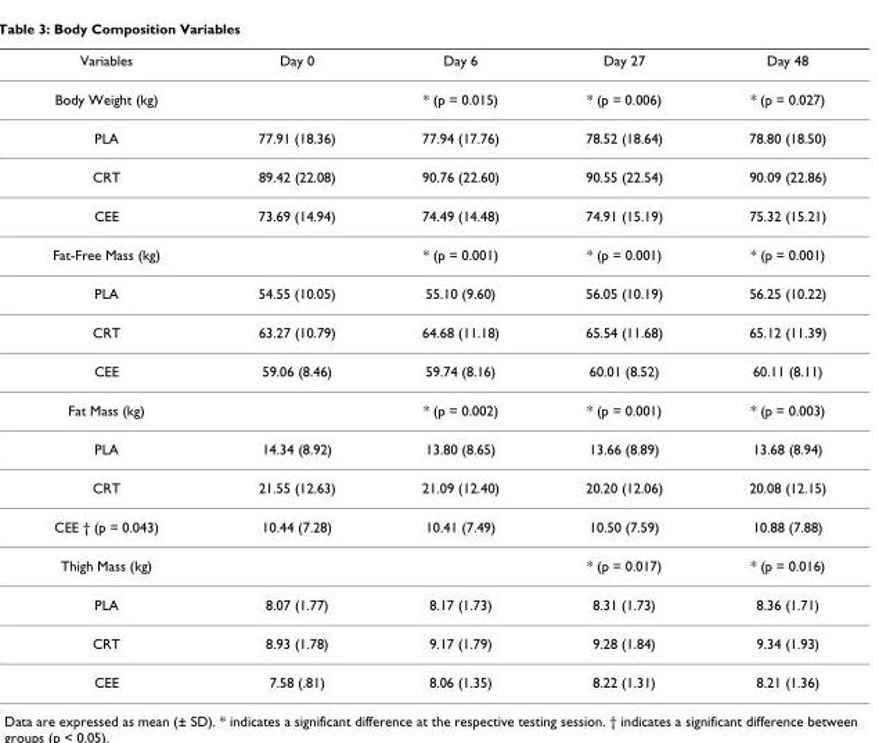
<table><thead><tr><td>Variables</td><td>Day 0</td><td>Day 6</td><td>Day 27</td><td>Day 48</td></tr></thead><tbody><tr><td>Body Weight (kg)</td><td></td><td>* (p = 0.015)</td><td>* (p = 0.006)</td><td>* (p = 0.027)</td></tr><tr><td>PLA</td><td>77.91 (18.36)</td><td>77.94 (17.76)</td><td>78.52 (18.64)</td><td>78.80 (18.50)</td></tr><tr><td>CRT</td><td>89.42 (22.08)</td><td>90.76 (22.60)</td><td>90.55 (22.54)</td><td>90.09 (22.86)</td></tr><tr><td>CEE</td><td>73.69 (14.94)</td><td>74.49 (14.48)</td><td>74.91 (15.19)</td><td>75.32 (15.21)</td></tr><tr><td>Fat-Free Mass (kg)</td><td></td><td>* (p = 0.001)</td><td>* (p = 0.001)</td><td>* (p = 0.001)</td></tr><tr><td>PLA</td><td>54.55 (10.05)</td><td>55.10 (9.60)</td><td>56.05 (10.19)</td><td>56.25 (10.22)</td></tr><tr><td>CRT</td><td>63.27 (10.79)</td><td>64.68 (11.18)</td><td>65.54 (11.68)</td><td>65.12 (11.39)</td></tr><tr><td>CEE</td><td>59.06 (8.46)</td><td>59.74 (8.16)</td><td>60.01 (8.52)</td><td>60.11 (8.11)</td></tr><tr><td>Fat Mass (kg)</td><td></td><td>* (p = 0.002)</td><td>* (p = 0.001)</td><td>* (p = 0.003)</td></tr><tr><td>PLA</td><td>14.34 (8.92)</td><td>13.80 (8.65)</td><td>13.66 (8.89)</td><td>13.68 (8.94)</td></tr><tr><td>CRT</td><td>21.55 (12.63)</td><td>21.09 (12.40)</td><td>20.20 (12.06)</td><td>20.08 (12.15)</td></tr><tr><td>CEE † (p = 0.043)</td><td>10.44 (7.28)</td><td>10.41 (7.49)</td><td>10.50 (7.59)</td><td>10.88 (7.88)</td></tr><tr><td>Thigh Mass (kg)</td><td></td><td></td><td>* (p = 0.017)</td><td>* (p = 0.016)</td></tr><tr><td>PLA</td><td>8.07 (1.77)</td><td>8.17 (1.73)</td><td>8.31 (1.73)</td><td>8.36 (1.71)</td></tr><tr><td>CRT</td><td>8.93 (1.78)</td><td>9.17 (1.79)</td><td>9.28 (1.84)</td><td>9.34 (1.93)</td></tr><tr><td>CEE</td><td>7.58 (.81)</td><td>8.06 (1.35)</td><td>8.22 (1.31)</td><td>8.21 (1.36)</td></tr></tbody></table>